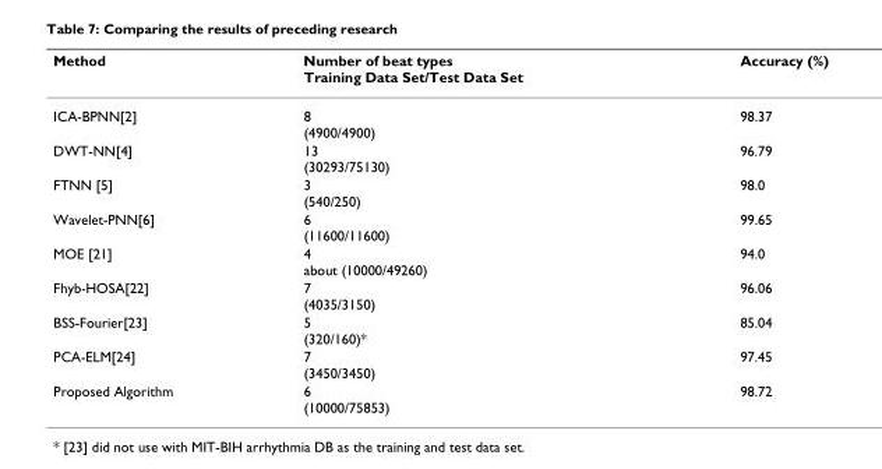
<table><thead><tr><td>Method</td><td>Number of beat types Training Data Set/Test Data Set</td><td>Accuracy (%)</td></tr></thead><tbody><tr><td>ICA-BPNN[2]</td><td>8 (4900/4900)</td><td>98.37</td></tr><tr><td>DWT-NN[4]</td><td>13 (30293/75130)</td><td>96.79</td></tr><tr><td>FTNN [5]</td><td>3 (540/250)</td><td>98.0</td></tr><tr><td>Wavelet-PNN[6]</td><td>6 (11600/11600)</td><td>99.65</td></tr><tr><td>MOE [21]</td><td>4 about (10000/49260)</td><td>94.0</td></tr><tr><td>Fhyb-HOSA[22]</td><td>7 (4035/3150)</td><td>96.06</td></tr><tr><td>BSS-Fourier[23]</td><td>5 (320/160)*</td><td>85.04</td></tr><tr><td>PCA-ELM[24]</td><td>7 (3450/3450)</td><td>97.45</td></tr><tr><td>Proposed Algorithm</td><td>6 (10000/75853)</td><td>98.72</td></tr></tbody></table>